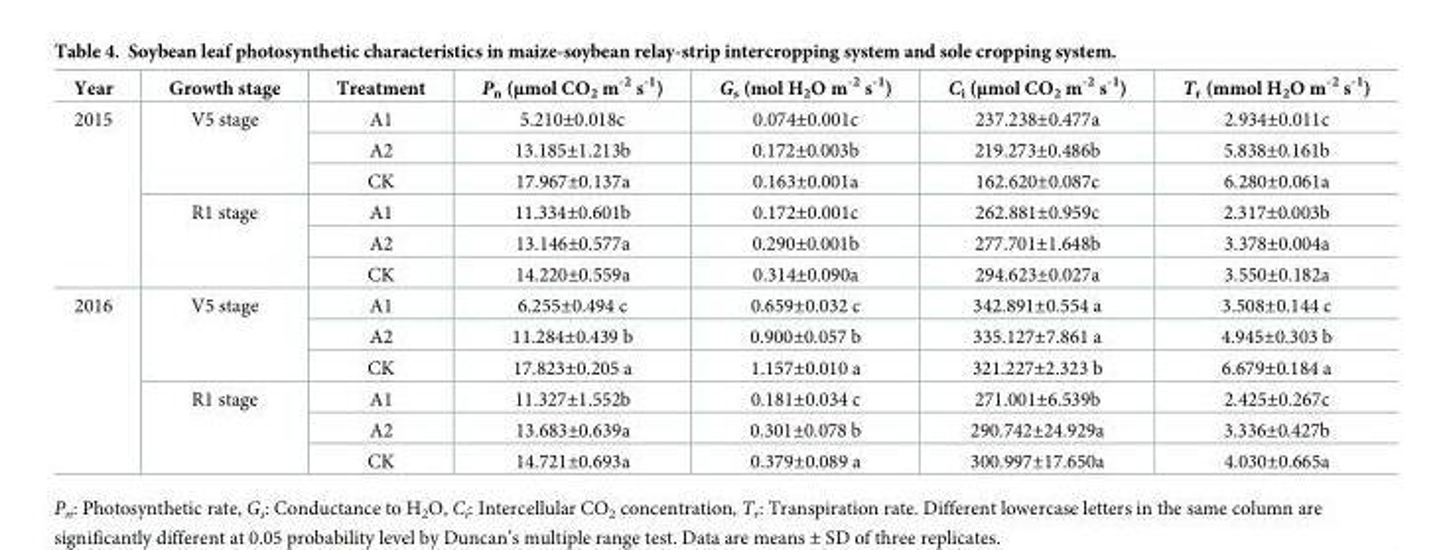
<table><thead><tr><td>Year</td><td>Growth stage</td><td>Treatment</td><td>P<sub>n</sub> (μmol CO<sub>2</sub> m<sup>-2</sup> s<sup>-1</sup>)</td><td>G<sub>s</sub> (mol H<sub>2</sub>O m<sup>-2</sup> s<sup>-1</sup>)</td><td>C<sub>i</sub> (μmol CO<sub>2</sub> m<sup>-2</sup> s<sup>-1</sup>)</td><td>T<sub>r</sub> (mmol H<sub>2</sub>O m<sup>-2</sup> s<sup>-1</sup>)</td></tr></thead><tbody><tr><td rowspan="6">2015</td><td rowspan="3">V5 stage</td><td>A1</td><td>5.210±0.018c</td><td>0.074±0.001c</td><td>237.238±0.477a</td><td>2.934±0.011c</td></tr><tr><td>A2</td><td>13.185±1.213b</td><td>0.172±0.003b</td><td>219.273±0.486b</td><td>5.838±0.161b</td></tr><tr><td>CK</td><td>17.967±0.137a</td><td>0.163±0.001a</td><td>162.620±0.087c</td><td>6.280±0.061a</td></tr><tr><td rowspan="3">R1 stage</td><td>A1</td><td>11.334±0.601b</td><td>0.172±0.001c</td><td>262.881±0.959c</td><td>2.317±0.003b</td></tr><tr><td>A2</td><td>13.146±0.577a</td><td>0.290±0.001b</td><td>277.701±1.648b</td><td>3.378±0.004a</td></tr><tr><td>CK</td><td>14.220±0.559a</td><td>0.314±0.090a</td><td>294.623±0.027a</td><td>3.550±0.182a</td></tr><tr><td rowspan="6">2016</td><td rowspan="3">V5 stage</td><td>A1</td><td>6.255±0.494 c</td><td>0.659±0.032 c</td><td>342.891±0.554 a</td><td>3.508±0.144 c</td></tr><tr><td>A2</td><td>11.284±0.439 b</td><td>0.900±0.057 b</td><td>335.127±7.861 a</td><td>4.945±0.303 b</td></tr><tr><td>CK</td><td>17.823±0.205 a</td><td>1.157±0.010 a</td><td>321.227±2.323 b</td><td>6.679±0.184 a</td></tr><tr><td rowspan="3">R1 stage</td><td>A1</td><td>11.327±1.552b</td><td>0.181±0.034 c</td><td>271.001±6.539b</td><td>2.425±0.267c</td></tr><tr><td>A2</td><td>13.683±0.639a</td><td>0.301±0.078 b</td><td>290.742±24.929a</td><td>3.336±0.427b</td></tr><tr><td>CK</td><td>14.721±0.693a</td><td>0.379±0.089 a</td><td>300.997±17.650a</td><td>4.030±0.665a</td></tr></tbody></table>